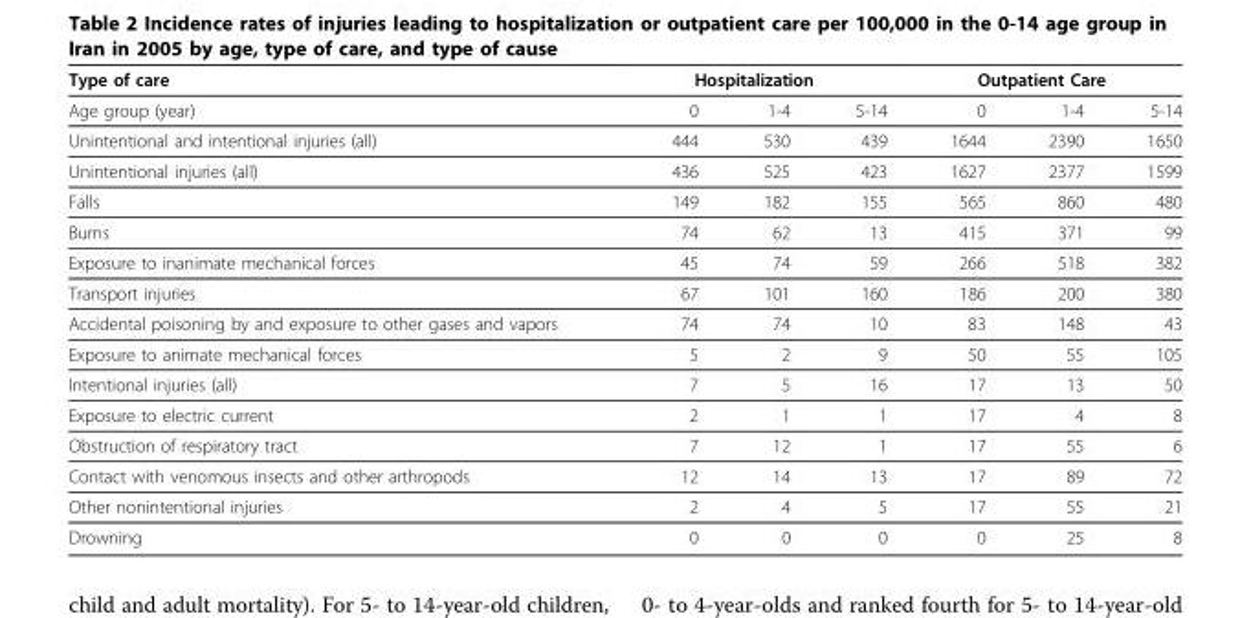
<table><thead><tr><td rowspan="2">Type of care Age group (year)</td><td colspan="3">Hospitalization</td><td colspan="3">Outpatient Care</td></tr><tr><td>0</td><td>1-4</td><td>5-14</td><td>0</td><td>1-4</td><td>5-14</td></tr></thead><tbody><tr><td>Unintentional and intentional injuries (all)</td><td>444</td><td>530</td><td>439</td><td>1644</td><td>2390</td><td>1650</td></tr><tr><td>Unintentional injuries (all)</td><td>436</td><td>525</td><td>423</td><td>1627</td><td>2377</td><td>1599</td></tr><tr><td>Falls</td><td>149</td><td>182</td><td>155</td><td>565</td><td>860</td><td>480</td></tr><tr><td>Burns</td><td>74</td><td>62</td><td>13</td><td>415</td><td>371</td><td>99</td></tr><tr><td>Exposure to inanimate mechanical forces</td><td>45</td><td>74</td><td>59</td><td>266</td><td>518</td><td>382</td></tr><tr><td>Transport injuries</td><td>67</td><td>101</td><td>160</td><td>186</td><td>200</td><td>380</td></tr><tr><td>Accidental poisoning by and exposure to other gases and vapors</td><td>74</td><td>74</td><td>10</td><td>83</td><td>148</td><td>43</td></tr><tr><td>Exposure to animate mechanical forces</td><td>5</td><td>2</td><td>9</td><td>50</td><td>55</td><td>105</td></tr><tr><td>Intentional injuries (all)</td><td>7</td><td>5</td><td>16</td><td>17</td><td>13</td><td>50</td></tr><tr><td>Exposure to electric current</td><td>2</td><td>1</td><td>1</td><td>17</td><td>4</td><td>8</td></tr><tr><td>Obstruction of respiratory tract</td><td>7</td><td>12</td><td>1</td><td>17</td><td>55</td><td>6</td></tr><tr><td>Contact with venomous insects and other arthropods</td><td>12</td><td>14</td><td>13</td><td>17</td><td>89</td><td>72</td></tr><tr><td>Other nonintentional injuries</td><td>2</td><td>4</td><td>5</td><td>17</td><td>55</td><td>21</td></tr><tr><td>Drowning</td><td>0</td><td>0</td><td>0</td><td>0</td><td>25</td><td>8</td></tr></tbody></table>